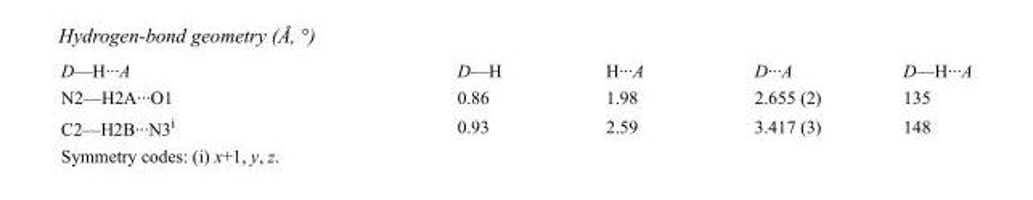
<table><tbody><tr><td>D—H···A</td><td>D—H</td><td>H···A</td><td>D···A</td><td>D—H···A</td></tr><tr><td>N2—H2A···O1</td><td>0.86</td><td>1.98</td><td>2.655 (2)</td><td>135</td></tr><tr><td>C2—H2B···N3<sup>i</sup></td><td>0.93</td><td>2.59</td><td>3.417 (3)</td><td>148</td></tr></tbody></table>